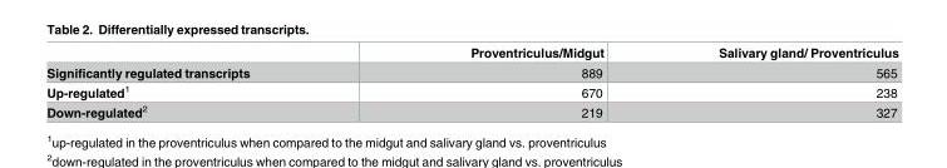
<table><thead><tr><td></td><td>Proventriculus/Midgut</td><td>Salivary gland/ Proventriculus</td></tr></thead><tbody><tr><td>Significantly regulated transcripts</td><td>889</td><td>565</td></tr><tr><td>Up-regulated<sup>1</sup></td><td>670</td><td>238</td></tr><tr><td>Down-regulated<sup>2</sup></td><td>219</td><td>327</td></tr></tbody></table>